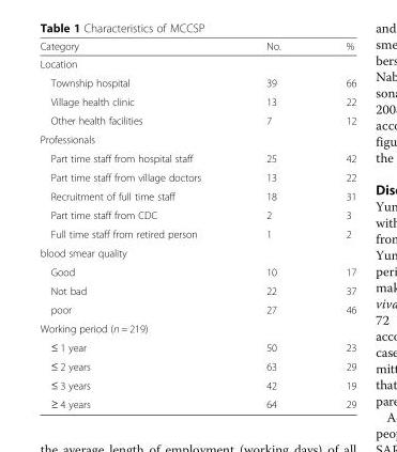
<table><thead><tr><td>Category</td><td>No.</td><td>%</td></tr></thead><tbody><tr><td colspan="3">Location</td></tr><tr><td>Township hospital</td><td>39</td><td>66</td></tr><tr><td>Village health clinic</td><td>13</td><td>22</td></tr><tr><td>Other health facilities</td><td>7</td><td>12</td></tr><tr><td colspan="3">Professionals</td></tr><tr><td>Part time staff from hospital staff</td><td>25</td><td>42</td></tr><tr><td>Part time staff from village doctors</td><td>13</td><td>22</td></tr><tr><td>Recruitment of full time staff</td><td>18</td><td>31</td></tr><tr><td>Part time staff from CDC</td><td>2</td><td>3</td></tr><tr><td>Full time staff from retired person</td><td>1</td><td>2</td></tr><tr><td colspan="3">blood smear quality</td></tr><tr><td>Good</td><td>10</td><td>17</td></tr><tr><td>Not bad</td><td>22</td><td>37</td></tr><tr><td>poor</td><td>27</td><td>46</td></tr><tr><td colspan="3">Working period (n = 219)</td></tr><tr><td>≤ 1 year</td><td>50</td><td>23</td></tr><tr><td>≤ 2 years</td><td>63</td><td>29</td></tr><tr><td>≤ 3 years</td><td>42</td><td>19</td></tr><tr><td>≥ 4 years</td><td>64</td><td>29</td></tr></tbody></table>